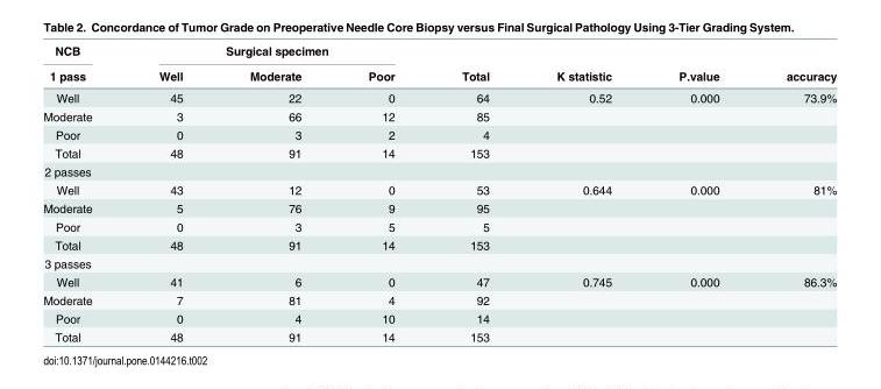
<table><thead><tr><td rowspan="2">NCB 1 pass</td><td colspan="3">Surgical specimen</td><td rowspan="2">Total</td><td rowspan="2">K statistic</td><td rowspan="2">P.value</td><td rowspan="2">accuracy</td></tr><tr><td>Well</td><td>Moderate</td><td>Poor</td></tr></thead><tbody><tr><td>Well</td><td>45</td><td>22</td><td>0</td><td>64</td><td>0.52</td><td>0.000</td><td>73.9%</td></tr><tr><td>Moderate</td><td>3</td><td>66</td><td>12</td><td>85</td><td></td><td></td><td></td></tr><tr><td>Poor</td><td>0</td><td>3</td><td>2</td><td>4</td><td></td><td></td><td></td></tr><tr><td>Total</td><td>48</td><td>91</td><td>14</td><td>153</td><td></td><td></td><td></td></tr><tr><td colspan="8">2 passes</td></tr><tr><td>Well</td><td>43</td><td>12</td><td>0</td><td>53</td><td>0.644</td><td>0.000</td><td>81%</td></tr><tr><td>Moderate</td><td>5</td><td>76</td><td>9</td><td>95</td><td></td><td></td><td></td></tr><tr><td>Poor</td><td>0</td><td>3</td><td>5</td><td>5</td><td></td><td></td><td></td></tr><tr><td>Total</td><td>48</td><td>91</td><td>14</td><td>153</td><td></td><td></td><td></td></tr><tr><td colspan="8">3 passes</td></tr><tr><td>Well</td><td>41</td><td>6</td><td>0</td><td>47</td><td>0.745</td><td>0.000</td><td>86.3%</td></tr><tr><td>Moderate</td><td>7</td><td>81</td><td>4</td><td>92</td><td></td><td></td><td></td></tr><tr><td>Poor</td><td>0</td><td>4</td><td>10</td><td>14</td><td></td><td></td><td></td></tr><tr><td>Total</td><td>48</td><td>91</td><td>14</td><td>153</td><td></td><td></td><td></td></tr></tbody></table>